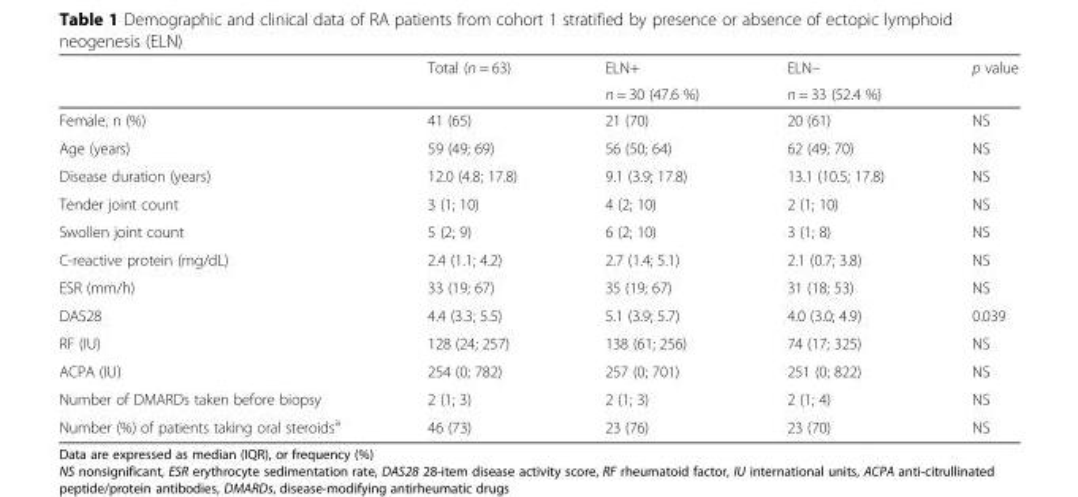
<table><thead><tr><td rowspan="2"></td><td rowspan="2">Total (n = 63)</td><td rowspan="2">ELN+ n = 30 (47.6 %)</td><td rowspan="2">ELN– n = 33 (52.4 %)</td><td rowspan="2">p value</td></tr><tr></tr></thead><tbody><tr><td>Female, n (%)</td><td>41 (65)</td><td>21 (70)</td><td>20 (61)</td><td>NS</td></tr><tr><td>Age (years)</td><td>59 (49; 69)</td><td>56 (50; 64)</td><td>62 (49; 70)</td><td>NS</td></tr><tr><td>Disease duration (years)</td><td>12.0 (4.8; 17.8)</td><td>9.1 (3.9; 17.8)</td><td>13.1 (10.5; 17.8)</td><td>NS</td></tr><tr><td>Tender joint count</td><td>3 (1; 10)</td><td>4 (2; 10)</td><td>2 (1; 10)</td><td>NS</td></tr><tr><td>Swollen joint count</td><td>5 (2; 9)</td><td>6 (2; 10)</td><td>3 (1; 8)</td><td>NS</td></tr><tr><td>C-reactive protein (mg/dL)</td><td>2.4 (1.1; 4.2)</td><td>2.7 (1.4; 5.1)</td><td>2.1 (0.7; 3.8)</td><td>NS</td></tr><tr><td>ESR (mm/h)</td><td>33 (19; 67)</td><td>35 (19; 67)</td><td>31 (18; 53)</td><td>NS</td></tr><tr><td>DAS28</td><td>4.4 (3.3; 5.5)</td><td>5.1 (3.9; 5.7)</td><td>4.0 (3.0; 4.9)</td><td>0.039</td></tr><tr><td>RF (IU)</td><td>128 (24; 257)</td><td>138 (61; 256)</td><td>74 (17; 325)</td><td>NS</td></tr><tr><td>ACPA (IU)</td><td>254 (0; 782)</td><td>257 (0; 701)</td><td>251 (0; 822)</td><td>NS</td></tr><tr><td>Number of DMARDs taken before biopsy</td><td>2 (1; 3)</td><td>2 (1; 3)</td><td>2 (1; 4)</td><td>NS</td></tr><tr><td>Number (%) of patients taking oral steroids<sup>a</sup></td><td>46 (73)</td><td>23 (76)</td><td>23 (70)</td><td>NS</td></tr></tbody></table>